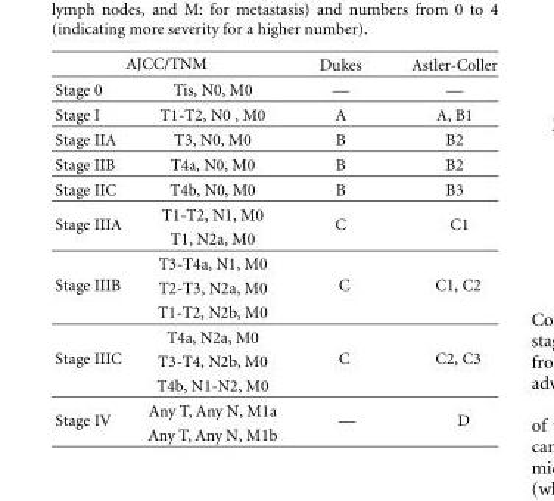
<table><thead><tr><td colspan="2">AJCC/TNM</td><td rowspan="2">Dukes —</td><td rowspan="2">Astler-Coller —</td></tr><tr><td>Stage 0</td><td>Tis, N0, M0</td></tr></thead><tbody><tr><td>Stage I</td><td>T1-T2, N0 , M0</td><td>A</td><td>A, B1</td></tr><tr><td>Stage IIA</td><td>T3, N0, M0</td><td>B</td><td>B2</td></tr><tr><td>Stage IIB</td><td>T4a, N0, M0</td><td>B</td><td>B2</td></tr><tr><td>Stage IIC</td><td>T4b, N0, M0</td><td>B</td><td>B3</td></tr><tr><td rowspan="2">Stage IIIA</td><td>T1-T2, N1, M0</td><td rowspan="2">C</td><td rowspan="2">C1</td></tr><tr><td>T1, N2a, M0</td></tr><tr><td rowspan="3">Stage IIIB</td><td>T3-T4a, N1, M0</td><td rowspan="3">C</td><td rowspan="3">C1, C2</td></tr><tr><td>T2-T3, N2a, M0</td></tr><tr><td>T1-T2, N2b, M0</td></tr><tr><td rowspan="3">Stage IIIC</td><td>T4a, N2a, M0</td><td rowspan="3">C</td><td rowspan="3">C2, C3</td></tr><tr><td>T3-T4, N2b, M0</td></tr><tr><td>T4b, N1-N2, M0</td></tr><tr><td rowspan="2">Stage IV</td><td>Any T, Any N, M1a</td><td rowspan="2">—</td><td rowspan="2">D</td></tr><tr><td>Any T, Any N, M1b</td></tr></tbody></table>